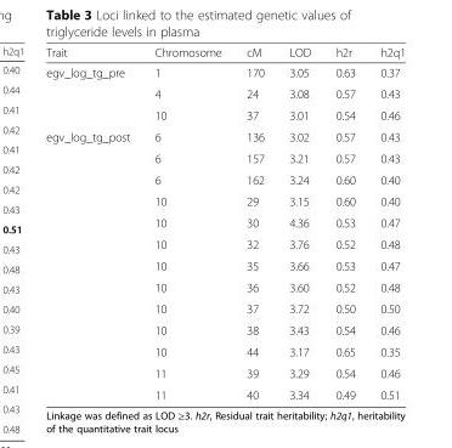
<table><thead><tr><td>Trait</td><td>Chromosome</td><td>cM</td><td>LOD</td><td>h2r</td><td>h2q1</td></tr></thead><tbody><tr><td rowspan="3">egv_log_tg_pre</td><td>1</td><td>170</td><td>3.05</td><td>0.63</td><td>0.37</td></tr><tr><td>4</td><td>24</td><td>3.08</td><td>0.57</td><td>0.43</td></tr><tr><td>10</td><td>37</td><td>3.01</td><td>0.54</td><td>0.46</td></tr><tr><td rowspan="13">egv_log_tg_post</td><td>6</td><td>136</td><td>3.02</td><td>0.57</td><td>0.43</td></tr><tr><td>6</td><td>157</td><td>3.21</td><td>0.57</td><td>0.43</td></tr><tr><td>6</td><td>162</td><td>3.24</td><td>0.60</td><td>0.40</td></tr><tr><td>10</td><td>29</td><td>3.15</td><td>0.60</td><td>0.40</td></tr><tr><td>10</td><td>30</td><td>4.36</td><td>0.53</td><td>0.47</td></tr><tr><td>10</td><td>32</td><td>3.76</td><td>0.52</td><td>0.48</td></tr><tr><td>10</td><td>35</td><td>3.66</td><td>0.53</td><td>0.47</td></tr><tr><td>10</td><td>36</td><td>3.60</td><td>0.52</td><td>0.48</td></tr><tr><td>10</td><td>37</td><td>3.72</td><td>0.50</td><td>0.50</td></tr><tr><td>10</td><td>38</td><td>3.43</td><td>0.54</td><td>0.46</td></tr><tr><td>10</td><td>44</td><td>3.17</td><td>0.65</td><td>0.35</td></tr><tr><td>11</td><td>39</td><td>3.29</td><td>0.54</td><td>0.46</td></tr><tr><td>11</td><td>40</td><td>3.34</td><td>0.49</td><td>0.51</td></tr></tbody></table>